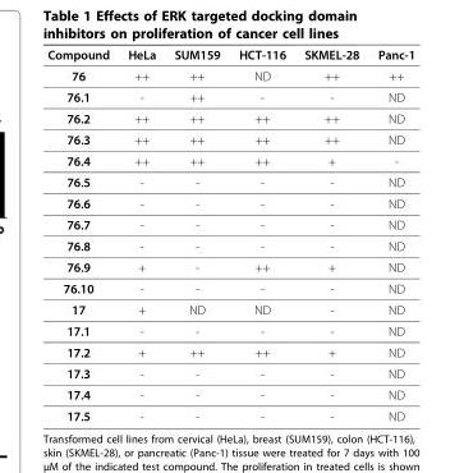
<table><thead><tr><td>Compound</td><td>HeLa</td><td>SUM159</td><td>HCT-116</td><td>SKMEL-28</td><td>Panc-1</td></tr></thead><tbody><tr><td>76</td><td>++</td><td>++</td><td>ND</td><td>++</td><td>++</td></tr><tr><td>76.1</td><td>-</td><td>++</td><td>-</td><td>-</td><td>ND</td></tr><tr><td>76.2</td><td>++</td><td>++</td><td>++</td><td>++</td><td>ND</td></tr><tr><td>76.3</td><td>++</td><td>++</td><td>++</td><td>++</td><td>ND</td></tr><tr><td>76.4</td><td>++</td><td>++</td><td>++</td><td>+</td><td>-</td></tr><tr><td>76.5</td><td>-</td><td>-</td><td>-</td><td>-</td><td>ND</td></tr><tr><td>76.6</td><td>-</td><td>-</td><td>-</td><td>-</td><td>ND</td></tr><tr><td>76.7</td><td>-</td><td>-</td><td>-</td><td>-</td><td>ND</td></tr><tr><td>76.8</td><td>-</td><td>-</td><td>-</td><td>-</td><td>ND</td></tr><tr><td>76.9</td><td>+</td><td>-</td><td>++</td><td>+</td><td>ND</td></tr><tr><td>76.10</td><td>-</td><td>-</td><td>-</td><td>-</td><td>ND</td></tr><tr><td>17</td><td>+</td><td>ND</td><td>ND</td><td>-</td><td>ND</td></tr><tr><td>17.1</td><td>-</td><td>-</td><td>-</td><td>-</td><td>ND</td></tr><tr><td>17.2</td><td>+</td><td>++</td><td>++</td><td>+</td><td>ND</td></tr><tr><td>17.3</td><td>-</td><td>-</td><td>-</td><td>-</td><td>ND</td></tr><tr><td>17.4</td><td>-</td><td>-</td><td>-</td><td>-</td><td>ND</td></tr><tr><td>17.5</td><td>-</td><td>-</td><td>-</td><td>-</td><td>ND</td></tr></tbody></table>